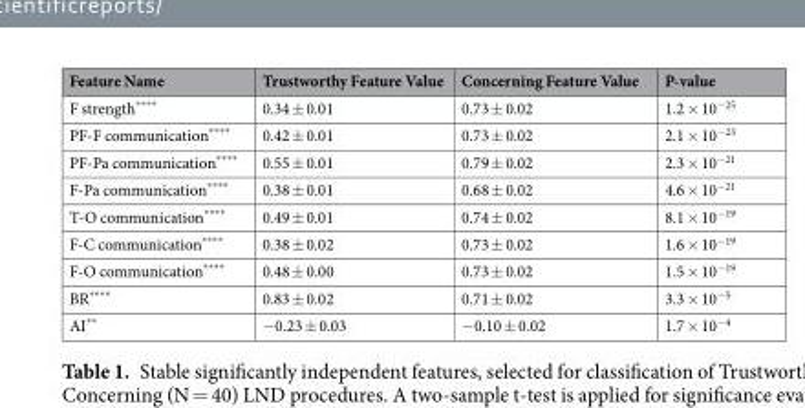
<table><thead><tr><td>Feature Name</td><td>Trustworthy Feature Value</td><td>Concerning Feature Value</td><td>P-value</td></tr></thead><tbody><tr><td>F strength****</td><td>0.34 ± 0.01</td><td>0.73 ± 0.02</td><td>1.2 × 10<sup>−25</sup></td></tr><tr><td>PF-F communication****</td><td>0.42 ± 0.01</td><td>0.73 ± 0.02</td><td>2.1 × 10<sup>−23</sup></td></tr><tr><td>PF-Pa communication****</td><td>0.55 ± 0.01</td><td>0.79 ± 0.02</td><td>2.3 × 10<sup>−21</sup></td></tr><tr><td>F-Pa communication****</td><td>0.38 ± 0.01</td><td>0.68 ± 0.02</td><td>4.6 × 10<sup>−21</sup></td></tr><tr><td>T-O communication****</td><td>0.49 ± 0.01</td><td>0.74 ± 0.02</td><td>8.1 × 10<sup>−19</sup></td></tr><tr><td>F-C communication****</td><td>0.38 ± 0.02</td><td>0.73 ± 0.02</td><td>1.6 × 10<sup>−19</sup></td></tr><tr><td>F-O communication****</td><td>0.48 ± 0.00</td><td>0.73 ± 0.02</td><td>1.5 × 10<sup>−19</sup></td></tr><tr><td>BR****</td><td>0.83 ± 0.02</td><td>0.71 ± 0.02</td><td>3.3 × 10<sup>−5</sup></td></tr><tr><td>AI**</td><td>−0.23 ± 0.03</td><td>−0.10 ± 0.02</td><td>1.7 × 10<sup>−4</sup></td></tr></tbody></table>